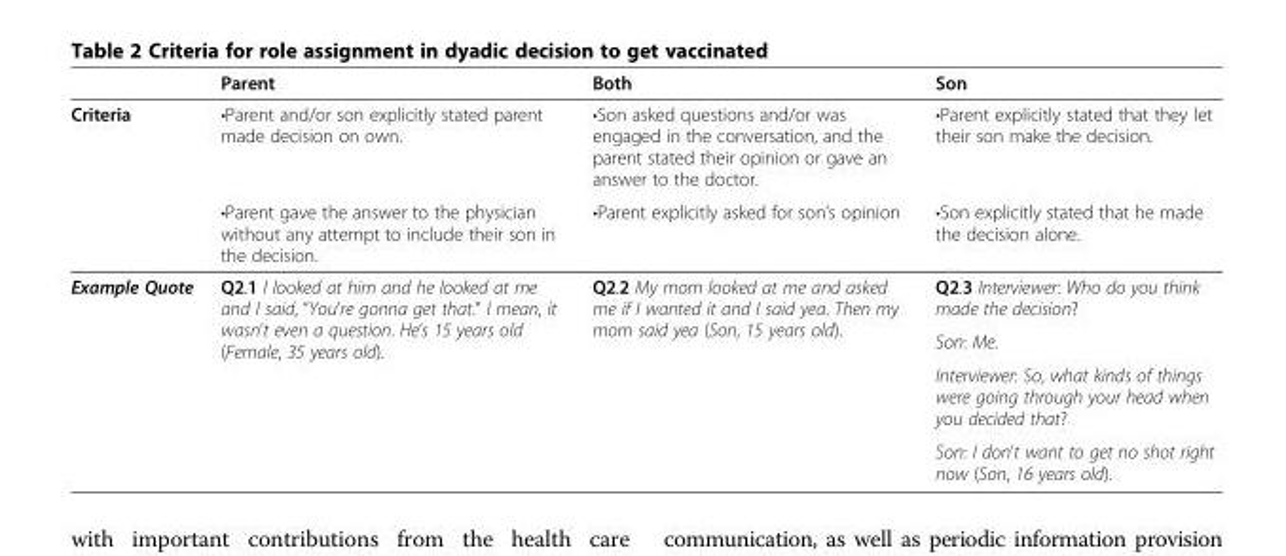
<table><thead><tr><td></td><td>Parent</td><td>Both</td><td>Son</td></tr></thead><tbody><tr><td rowspan="2">Criteria</td><td>•Parent and/or son explicitly stated parent made decision on own.</td><td>•Son asked questions and/or was engaged in the conversation, and the parent stated their opinion or gave an answer to the doctor.</td><td>•Parent explicitly stated that they let their son make the decision.</td></tr><tr><td>•Parent gave the answer to the physician without any attempt to include their son in the decision.</td><td>•Parent explicitly asked for son’s opinion</td><td>•Son explicitly stated that he made the decision alone.</td></tr><tr><td rowspan="4">Example Quote</td><td rowspan="3">Q2.1 I looked at him and he looked at me and I said, “You’re gonna get that.” I mean, it wasn’t even a question. He’s 15 years old (Female, 35 years old).</td><td rowspan="3">Q2.2 My mom looked at me and asked me if I wanted it and I said yea. Then my mom said yea (Son, 15 years old).</td><td>Q2.3 Interviewer: Who do you think made the decision?</td></tr><tr><td>Son: Me.</td></tr><tr><td>Interviewer: So, what kinds of things were going through your head when you decided that?</td></tr><tr><td></td><td></td><td>Son: I don’t want to get no shot right now (Son, 16 years old).</td></tr></tbody></table>